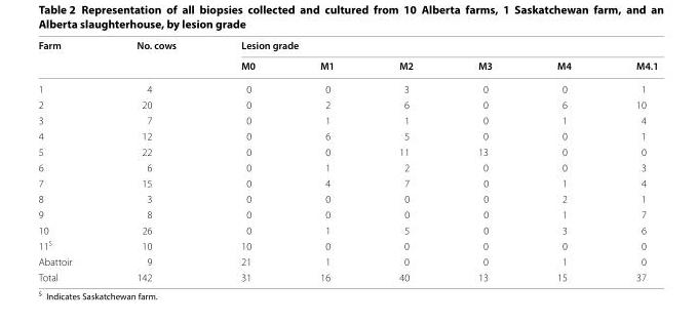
<table><thead><tr><td rowspan="2">Farm</td><td rowspan="2">No. cows</td><td colspan="6">Lesion grade</td></tr><tr><td>M0</td><td>M1</td><td>M2</td><td>M3</td><td>M4</td><td>M4.1</td></tr></thead><tbody><tr><td>1</td><td>4</td><td>0</td><td>0</td><td>3</td><td>0</td><td>0</td><td>1</td></tr><tr><td>2</td><td>20</td><td>0</td><td>2</td><td>6</td><td>0</td><td>6</td><td>10</td></tr><tr><td>3</td><td>7</td><td>0</td><td>1</td><td>1</td><td>0</td><td>1</td><td>4</td></tr><tr><td>4</td><td>12</td><td>0</td><td>6</td><td>5</td><td>0</td><td>0</td><td>1</td></tr><tr><td>5</td><td>22</td><td>0</td><td>0</td><td>11</td><td>13</td><td>0</td><td>0</td></tr><tr><td>6</td><td>6</td><td>0</td><td>1</td><td>2</td><td>0</td><td>0</td><td>3</td></tr><tr><td>7</td><td>15</td><td>0</td><td>4</td><td>7</td><td>0</td><td>1</td><td>4</td></tr><tr><td>8</td><td>3</td><td>0</td><td>0</td><td>0</td><td>0</td><td>2</td><td>1</td></tr><tr><td>9</td><td>8</td><td>0</td><td>0</td><td>0</td><td>0</td><td>1</td><td>7</td></tr><tr><td>10</td><td>26</td><td>0</td><td>1</td><td>5</td><td>0</td><td>3</td><td>6</td></tr><tr><td>11<sup>S</sup></td><td>10</td><td>10</td><td>0</td><td>0</td><td>0</td><td>0</td><td>0</td></tr><tr><td>Abattoir</td><td>9</td><td>21</td><td>1</td><td>0</td><td>0</td><td>1</td><td>0</td></tr><tr><td>Total</td><td>142</td><td>31</td><td>16</td><td>40</td><td>13</td><td>15</td><td>37</td></tr></tbody></table>